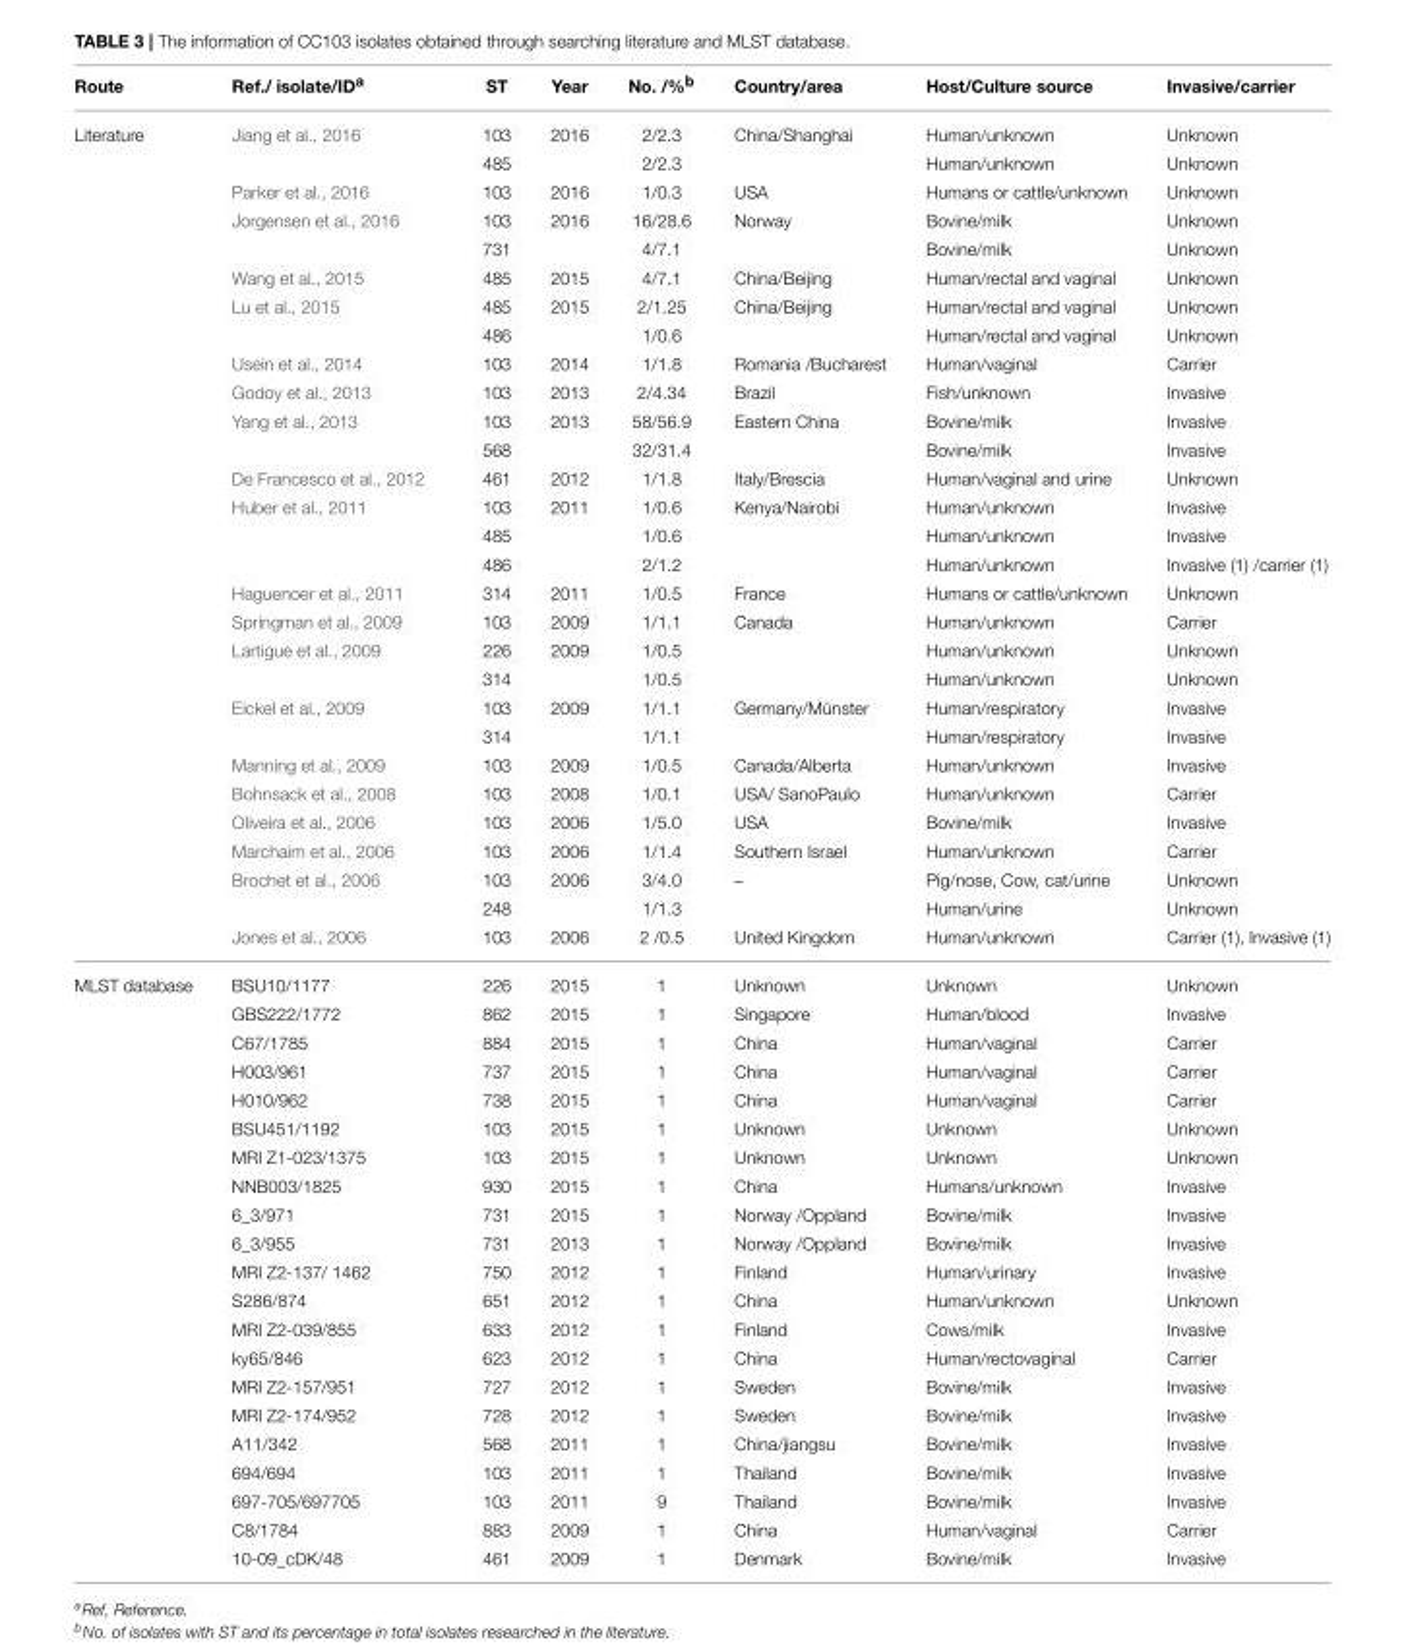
<table><thead><tr><td>Route</td><td>Ref./ isolate/ID<sup>a</sup></td><td>ST</td><td>Year</td><td>No. /%<sup>b</sup></td><td>Country/area</td><td>Host/Culture source</td><td>Invasive/carrier</td></tr></thead><tbody><tr><td rowspan="29">Literature</td><td>Jiang et al., 2016</td><td>103</td><td>2016</td><td>2/2.3</td><td>China/Shanghai</td><td>Human/unknown</td><td>Unknown</td></tr><tr><td></td><td>485</td><td></td><td>2/2.3</td><td></td><td>Human/unknown</td><td>Unknown</td></tr><tr><td>Parker et al., 2016</td><td>103</td><td>2016</td><td>1/0.3</td><td>USA</td><td>Humans or cattle/unknown</td><td>Unknown</td></tr><tr><td>Jorgensen et al., 2016</td><td>103</td><td>2016</td><td>16/28.6</td><td>Norway</td><td>Bovine/milk</td><td>Unknown</td></tr><tr><td></td><td>731</td><td></td><td>4/7.1</td><td></td><td>Bovine/milk</td><td>Unknown</td></tr><tr><td>Wang et al., 2015</td><td>485</td><td>2015</td><td>4/7.1</td><td>China/Beijing</td><td>Human/rectal and vaginal</td><td>Unknown</td></tr><tr><td>Lu et al., 2015</td><td>485</td><td>2015</td><td>2/1.25</td><td>China/Beijing</td><td>Human/rectal and vaginal</td><td>Unknown</td></tr><tr><td></td><td>486</td><td></td><td>1/0.6</td><td></td><td>Human/rectal and vaginal</td><td>Unknown</td></tr><tr><td>Usein et al., 2014</td><td>103</td><td>2014</td><td>1/1.8</td><td>Romania /Bucharest</td><td>Human/vaginal</td><td>Carrier</td></tr><tr><td>Godoy et al., 2013</td><td>103</td><td>2013</td><td>2/4.34</td><td>Brazil</td><td>Fish/unknown</td><td>Invasive</td></tr><tr><td>Yang et al., 2013</td><td>103</td><td>2013</td><td>58/56.9</td><td>Eastern China</td><td>Bovine/milk</td><td>Invasive</td></tr><tr><td></td><td>568</td><td></td><td>32/31.4</td><td></td><td>Bovine/milk</td><td>Invasive</td></tr><tr><td>De Francesco et al., 2012</td><td>461</td><td>2012</td><td>1/1.8</td><td>Italy/Brescia</td><td>Human/vaginal and urine</td><td>Unknown</td></tr><tr><td>Huber et al., 2011</td><td>103</td><td>2011</td><td>1/0.6</td><td>Kenya/Nairobi</td><td>Human/unknown</td><td>Invasive</td></tr><tr><td></td><td>485</td><td></td><td>1/0.6</td><td></td><td>Human/unknown</td><td>Invasive</td></tr><tr><td></td><td>486</td><td></td><td>2/1.2</td><td></td><td>Human/unknown</td><td>Invasive (1) /carrier (1)</td></tr><tr><td>Haguenoer et al., 2011</td><td>314</td><td>2011</td><td>1/0.5</td><td>France</td><td>Humans or cattle/unknown</td><td>Unknown</td></tr><tr><td>Springman et al., 2009</td><td>103</td><td>2009</td><td>1/1.1</td><td>Canada</td><td>Human/unknown</td><td>Carrier</td></tr><tr><td>Lartigue et al., 2009</td><td>226</td><td>2009</td><td>1/0.5</td><td></td><td>Human/unknown</td><td>Unknown</td></tr><tr><td></td><td>314</td><td></td><td>1/0.5</td><td></td><td>Human/unknown</td><td>Unknown</td></tr><tr><td>Eickel et al., 2009</td><td>103</td><td>2009</td><td>1/1.1</td><td>Germany/Münster</td><td>Human/respiratory</td><td>Invasive</td></tr><tr><td></td><td>314</td><td></td><td>1/1.1</td><td></td><td>Human/respiratory</td><td>Invasive</td></tr><tr><td>Manning et al., 2009</td><td>103</td><td>2009</td><td>1/0.5</td><td>Canada/Alberta</td><td>Human/unknown</td><td>Invasive</td></tr><tr><td>Bohnsack et al., 2008</td><td>103</td><td>2008</td><td>1/0.1</td><td>USA/ SanoPaulo</td><td>Human/unknown</td><td>Carrier</td></tr><tr><td>Oliveira et al., 2006</td><td>103</td><td>2006</td><td>1/5.0</td><td>USA</td><td>Bovine/milk</td><td>Invasive</td></tr><tr><td>Marchaim et al., 2006</td><td>103</td><td>2006</td><td>1/1.4</td><td>Southern Israel</td><td>Human/unknown</td><td>Carrier</td></tr><tr><td>Brochet et al., 2006</td><td>103</td><td>2006</td><td>3/4.0</td><td>–</td><td>Pig/nose, Cow, cat/urine</td><td>Unknown</td></tr><tr><td></td><td>248</td><td></td><td>1/1.3</td><td></td><td>Human/urine</td><td>Unknown</td></tr><tr><td>Jones et al., 2006</td><td>103</td><td>2006</td><td>2 /0.5</td><td>United Kingdom</td><td>Human/unknown</td><td>Carrier (1), Invasive (1)</td></tr><tr><td rowspan="21">MLST database</td><td>BSU10/1177</td><td>226</td><td>2015</td><td>1</td><td>Unknown</td><td>Unknown</td><td>Unknown</td></tr><tr><td>GBS222/1772</td><td>862</td><td>2015</td><td>1</td><td>Singapore</td><td>Human/blood</td><td>Invasive</td></tr><tr><td>C67/1785</td><td>884</td><td>2015</td><td>1</td><td>China</td><td>Human/vaginal</td><td>Carrier</td></tr><tr><td>H003/961</td><td>737</td><td>2015</td><td>1</td><td>China</td><td>Human/vaginal</td><td>Carrier</td></tr><tr><td>H010/962</td><td>738</td><td>2015</td><td>1</td><td>China</td><td>Human/vaginal</td><td>Carrier</td></tr><tr><td>BSU451/1192</td><td>103</td><td>2015</td><td>1</td><td>Unknown</td><td>Unknown</td><td>Unknown</td></tr><tr><td>MRI Z1-023/1375</td><td>103</td><td>2015</td><td>1</td><td>Unknown</td><td>Unknown</td><td>Unknown</td></tr><tr><td>NNB003/1825</td><td>930</td><td>2015</td><td>1</td><td>China</td><td>Humans/unknown</td><td>Invasive</td></tr><tr><td>6_3/971</td><td>731</td><td>2015</td><td>1</td><td>Norway /Oppland</td><td>Bovine/milk</td><td>Invasive</td></tr><tr><td>6_3/955</td><td>731</td><td>2013</td><td>1</td><td>Norway /Oppland</td><td>Bovine/milk</td><td>Invasive</td></tr><tr><td>MRI Z2-137/ 1462</td><td>750</td><td>2012</td><td>1</td><td>Finland</td><td>Human/urinary</td><td>Invasive</td></tr><tr><td>S286/874</td><td>651</td><td>2012</td><td>1</td><td>China</td><td>Human/unknown</td><td>Unknown</td></tr><tr><td>MRI Z2-039/855</td><td>633</td><td>2012</td><td>1</td><td>Finland</td><td>Cows/milk</td><td>Invasive</td></tr><tr><td>ky65/846</td><td>623</td><td>2012</td><td>1</td><td>China</td><td>Human/rectovaginal</td><td>Carrier</td></tr><tr><td>MRI Z2-157/951</td><td>727</td><td>2012</td><td>1</td><td>Sweden</td><td>Bovine/milk</td><td>Invasive</td></tr><tr><td>MRI Z2-174/952</td><td>728</td><td>2012</td><td>1</td><td>Sweden</td><td>Bovine/milk</td><td>Invasive</td></tr><tr><td>A11/342</td><td>568</td><td>2011</td><td>1</td><td>China/jiangsu</td><td>Bovine/milk</td><td>Invasive</td></tr><tr><td>694/694</td><td>103</td><td>2011</td><td>1</td><td>Thailand</td><td>Bovine/milk</td><td>Invasive</td></tr><tr><td>697-705/697705</td><td>103</td><td>2011</td><td>9</td><td>Thailand</td><td>Bovine/milk</td><td>Invasive</td></tr><tr><td>C8/1784</td><td>883</td><td>2009</td><td>1</td><td>China</td><td>Human/vaginal</td><td>Carrier</td></tr><tr><td>10-09_cDK/48</td><td>461</td><td>2009</td><td>1</td><td>Denmark</td><td>Bovine/milk</td><td>Invasive</td></tr></tbody></table>